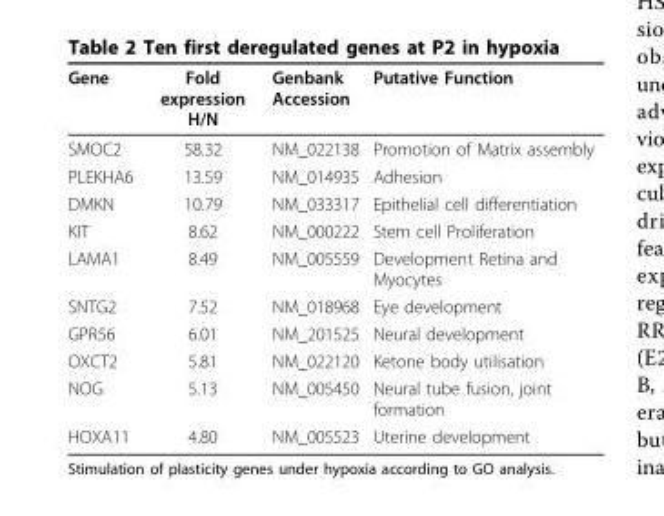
<table><thead><tr><td>Gene</td><td>Fold expression H/N</td><td>Genbank Accession</td><td>Putative Function</td></tr></thead><tbody><tr><td>SMOC2</td><td>58.32</td><td>NM_022138</td><td>Promotion of Matrix assembly</td></tr><tr><td>PLEKHA6</td><td>13.59</td><td>NM_014935</td><td>Adhesion</td></tr><tr><td>DMKN</td><td>10.79</td><td>NM_033317</td><td>Epithelial cell differentiation</td></tr><tr><td>KIT</td><td>8.62</td><td>NM_000222</td><td>Stem cell Proliferation</td></tr><tr><td>LAMA1</td><td>8.49</td><td>NM_005559</td><td>Development Retina and Myocytes</td></tr><tr><td>SNTG2</td><td>7.52</td><td>NM_018968</td><td>Eye development</td></tr><tr><td>GPR56</td><td>6.01</td><td>NM_201525</td><td>Neural development</td></tr><tr><td>OXCT2</td><td>5.81</td><td>NM_022120</td><td>Ketone body utilisation</td></tr><tr><td>NOG</td><td>5.13</td><td>NM_005450</td><td>Neural tube fusion, joint formation</td></tr><tr><td>HOXA11</td><td>4.80</td><td>NM_005523</td><td>Uterine development</td></tr></tbody></table>